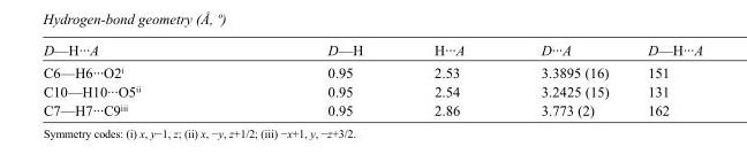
<table><tbody><tr><td>D—H···A</td><td>D—H</td><td>H···A</td><td>D···A</td><td>D—H···A</td></tr><tr><td>C6—H6···O2<sup>i</sup></td><td>0.95</td><td>2.53</td><td>3.3895 (16)</td><td>151</td></tr><tr><td>C10—H10···O5<sup>ii</sup></td><td>0.95</td><td>2.54</td><td>3.2425 (15)</td><td>131</td></tr><tr><td>C7—H7···C9<sup>iii</sup></td><td>0.95</td><td>2.86</td><td>3.773 (2)</td><td>162</td></tr></tbody></table>